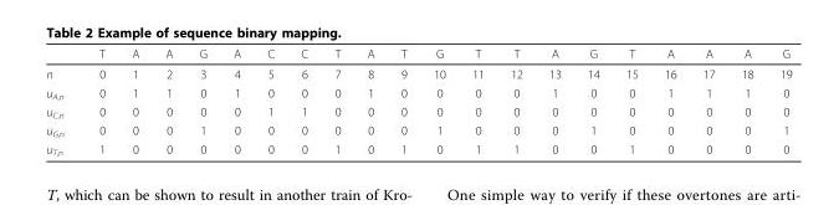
<table><thead><tr><td></td><td>T</td><td>A</td><td>A</td><td>G</td><td>A</td><td>C</td><td>C</td><td>T</td><td>A</td><td>T</td><td>G</td><td>T</td><td>T</td><td>A</td><td>G</td><td>T</td><td>A</td><td>A</td><td>A</td><td>G</td></tr></thead><tbody><tr><td>n</td><td>0</td><td>1</td><td>2</td><td>3</td><td>4</td><td>5</td><td>6</td><td>7</td><td>8</td><td>9</td><td>10</td><td>11</td><td>12</td><td>13</td><td>14</td><td>15</td><td>16</td><td>17</td><td>18</td><td>19</td></tr><tr><td>u<sub>A,n</sub></td><td>0</td><td>1</td><td>1</td><td>0</td><td>1</td><td>0</td><td>0</td><td>0</td><td>1</td><td>0</td><td>0</td><td>0</td><td>0</td><td>1</td><td>0</td><td>0</td><td>1</td><td>1</td><td>1</td><td>0</td></tr><tr><td>u<sub>C,n</sub></td><td>0</td><td>0</td><td>0</td><td>0</td><td>0</td><td>1</td><td>1</td><td>0</td><td>0</td><td>0</td><td>0</td><td>0</td><td>0</td><td>0</td><td>0</td><td>0</td><td>0</td><td>0</td><td>0</td><td>0</td></tr><tr><td>u<sub>G,n</sub></td><td>0</td><td>0</td><td>0</td><td>1</td><td>0</td><td>0</td><td>0</td><td>0</td><td>0</td><td>0</td><td>1</td><td>0</td><td>0</td><td>0</td><td>1</td><td>0</td><td>0</td><td>0</td><td>0</td><td>1</td></tr><tr><td>u<sub>T,n</sub></td><td>1</td><td>0</td><td>0</td><td>0</td><td>0</td><td>0</td><td>0</td><td>1</td><td>0</td><td>1</td><td>0</td><td>1</td><td>1</td><td>0</td><td>0</td><td>1</td><td>0</td><td>0</td><td>0</td><td>0</td></tr></tbody></table>